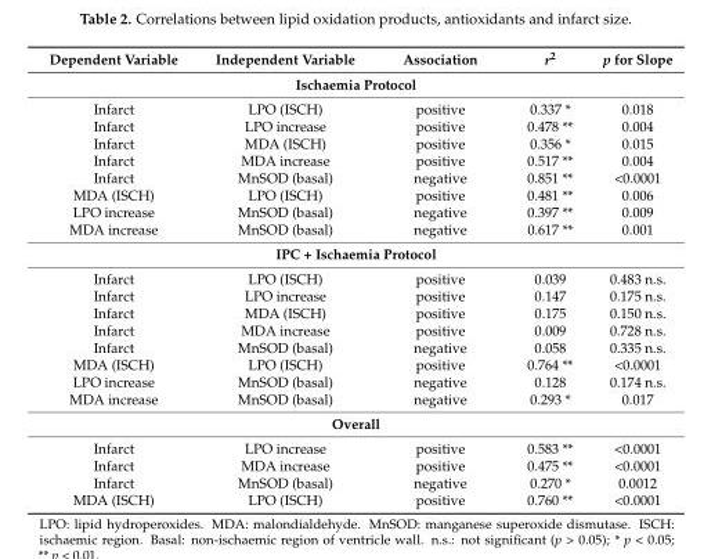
<table><thead><tr><td>Dependent Variable</td><td>Independent Variable</td><td>Association</td><td>r<sup>2</sup></td><td>p for Slope</td></tr></thead><tbody><tr><td colspan="5">Ischaemia Protocol</td></tr><tr><td>Infarct</td><td>LPO (ISCH)</td><td>positive</td><td>0.337 *</td><td>0.018</td></tr><tr><td>Infarct</td><td>LPO increase</td><td>positive</td><td>0.478 **</td><td>0.004</td></tr><tr><td>Infarct</td><td>MDA (ISCH)</td><td>positive</td><td>0.356 *</td><td>0.015</td></tr><tr><td>Infarct</td><td>MDA increase</td><td>positive</td><td>0.517 **</td><td>0.004</td></tr><tr><td>Infarct</td><td>MnSOD (basal)</td><td>negative</td><td>0.851 **</td><td>&lt;0.0001</td></tr><tr><td>MDA (ISCH)</td><td>LPO (ISCH)</td><td>positive</td><td>0.481 **</td><td>0.006</td></tr><tr><td>LPO increase</td><td>MnSOD (basal)</td><td>negative</td><td>0.397 **</td><td>0.009</td></tr><tr><td>MDA increase</td><td>MnSOD (basal)</td><td>negative</td><td>0.617 **</td><td>0.001</td></tr><tr><td colspan="5">IPC + Ischaemia Protocol</td></tr><tr><td>Infarct</td><td>LPO (ISCH)</td><td>positive</td><td>0.039</td><td>0.483 n.s.</td></tr><tr><td>Infarct</td><td>LPO increase</td><td>positive</td><td>0.147</td><td>0.175 n.s.</td></tr><tr><td>Infarct</td><td>MDA (ISCH)</td><td>positive</td><td>0.175</td><td>0.150 n.s.</td></tr><tr><td>Infarct</td><td>MDA increase</td><td>positive</td><td>0.009</td><td>0.728 n.s.</td></tr><tr><td>Infarct</td><td>MnSOD (basal)</td><td>negative</td><td>0.058</td><td>0.335 n.s.</td></tr><tr><td>MDA (ISCH)</td><td>LPO (ISCH)</td><td>positive</td><td>0.764 **</td><td>&lt;0.0001</td></tr><tr><td>LPO increase</td><td>MnSOD (basal)</td><td>negative</td><td>0.128</td><td>0.174 n.s.</td></tr><tr><td>MDA increase</td><td>MnSOD (basal)</td><td>negative</td><td>0.293 *</td><td>0.017</td></tr><tr><td colspan="5">Overall</td></tr><tr><td>Infarct</td><td>LPO increase</td><td>positive</td><td>0.583 **</td><td>&lt;0.0001</td></tr><tr><td>Infarct</td><td>MDA increase</td><td>positive</td><td>0.475 **</td><td>&lt;0.0001</td></tr><tr><td>Infarct</td><td>MnSOD (basal)</td><td>negative</td><td>0.270 *</td><td>0.0012</td></tr><tr><td>MDA (ISCH)</td><td>LPO (ISCH)</td><td>positive</td><td>0.760 **</td><td>&lt;0.0001</td></tr></tbody></table>